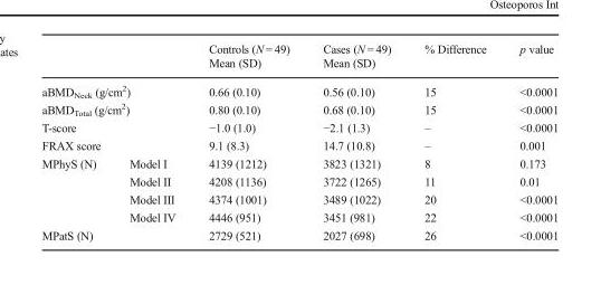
<table><thead><tr><td rowspan="2"></td><td rowspan="2"></td><td rowspan="2">Controls (N = 49) Mean (SD)</td><td rowspan="2">Cases (N = 49) Mean (SD)</td><td rowspan="2">% Difference</td><td rowspan="2">p value</td></tr><tr></tr></thead><tbody><tr><td colspan="2">aBMD<sub>Neck</sub> (g/cm<sup>2</sup>)</td><td>0.66 (0.10)</td><td>0.56 (0.10)</td><td>15</td><td>&lt;0.0001</td></tr><tr><td colspan="2">aBMD<sub>Total</sub> (g/cm<sup>2</sup>)</td><td>0.80 (0.10)</td><td>0.68 (0.10)</td><td>15</td><td>&lt;0.0001</td></tr><tr><td colspan="2">T-score</td><td>−1.0 (1.0)</td><td>−2.1 (1.3)</td><td>–</td><td>&lt;0.0001</td></tr><tr><td colspan="2">FRAX score</td><td>9.1 (8.3)</td><td>14.7 (10.8)</td><td>–</td><td>0.001</td></tr><tr><td rowspan="4">MPhyS (N)</td><td>Model I</td><td>4139 (1212)</td><td>3823 (1321)</td><td>8</td><td>0.173</td></tr><tr><td>Model II</td><td>4208 (1136)</td><td>3722 (1265)</td><td>11</td><td>0.01</td></tr><tr><td>Model III</td><td>4374 (1001)</td><td>3489 (1022)</td><td>20</td><td>&lt;0.0001</td></tr><tr><td>Model IV</td><td>4446 (951)</td><td>3451 (981)</td><td>22</td><td>&lt;0.0001</td></tr><tr><td colspan="2">MPatS (N)</td><td>2729 (521)</td><td>2027 (698)</td><td>26</td><td>&lt;0.0001</td></tr></tbody></table>